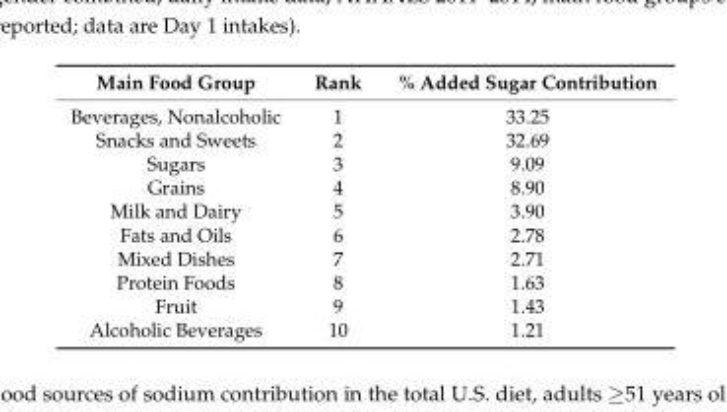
<table><thead><tr><td>Main Food Group</td><td>Rank</td><td>% Added Sugar Contribution</td></tr></thead><tbody><tr><td>Beverages, Nonalcoholic</td><td>1</td><td>33.25</td></tr><tr><td>Snacks and Sweets</td><td>2</td><td>32.69</td></tr><tr><td>Sugars</td><td>3</td><td>9.09</td></tr><tr><td>Grains</td><td>4</td><td>8.90</td></tr><tr><td>Milk and Dairy</td><td>5</td><td>3.90</td></tr><tr><td>Fats and Oils</td><td>6</td><td>2.78</td></tr><tr><td>Mixed Dishes</td><td>7</td><td>2.71</td></tr><tr><td>Protein Foods</td><td>8</td><td>1.63</td></tr><tr><td>Fruit</td><td>9</td><td>1.43</td></tr><tr><td>Alcoholic Beverages</td><td>10</td><td>1.21</td></tr></tbody></table>